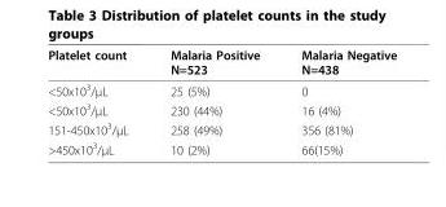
<table><thead><tr><td>Platelet count</td><td>Malaria Positive N=523</td><td>Malaria Negative N=438</td></tr></thead><tbody><tr><td>&lt;50x10<sup>3</sup>/μL</td><td>25 (5%)</td><td>0</td></tr><tr><td>&lt;50x10<sup>3</sup>/μL</td><td>230 (44%)</td><td>16 (4%)</td></tr><tr><td>151-450x10<sup>3</sup>/μL</td><td>258 (49%)</td><td>356 (81%)</td></tr><tr><td>&gt;450x10<sup>3</sup>/μL</td><td>10 (2%)</td><td>66(15%)</td></tr></tbody></table>